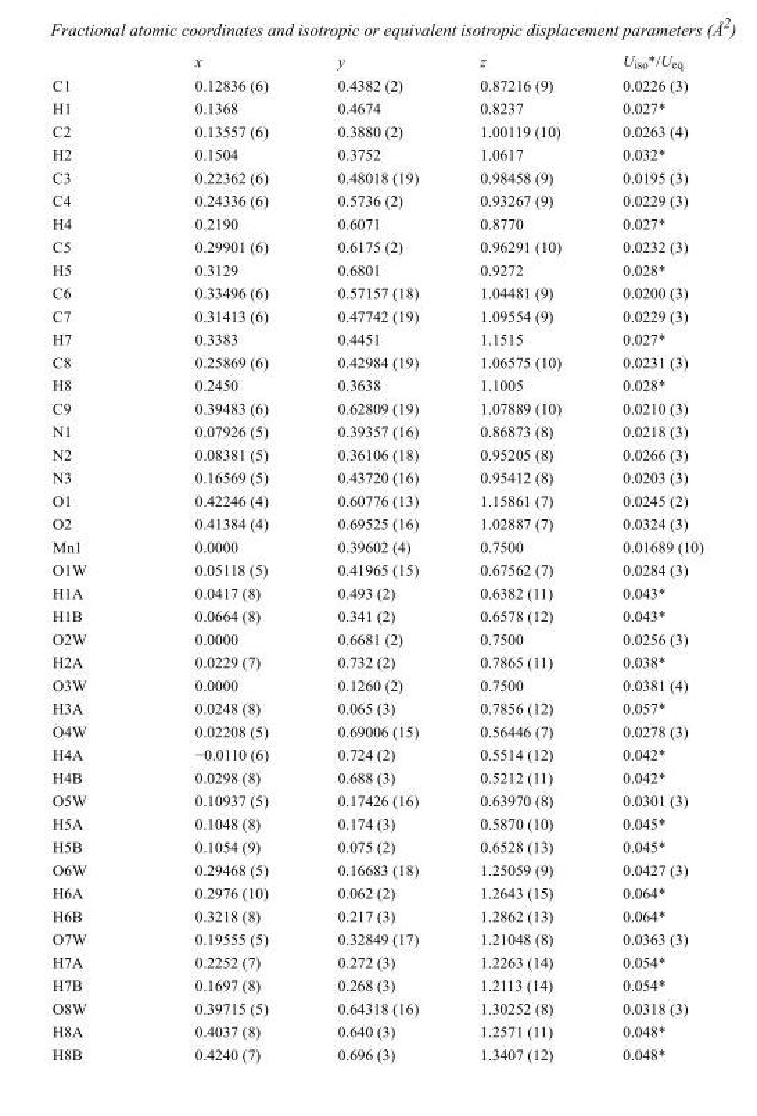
<table><thead><tr><td></td><td>x</td><td>y</td><td>z</td><td>U<sub>iso</sub>*/U<sub>eq</sub></td></tr></thead><tbody><tr><td>C1</td><td>0.12836 (6)</td><td>0.4382 (2)</td><td>0.87216 (9)</td><td>0.0226 (3)</td></tr><tr><td>H1</td><td>0.1368</td><td>0.4674</td><td>0.8237</td><td>0.027*</td></tr><tr><td>C2</td><td>0.13557 (6)</td><td>0.3880 (2)</td><td>1.00119 (10)</td><td>0.0263 (4)</td></tr><tr><td>H2</td><td>0.1504</td><td>0.3752</td><td>1.0617</td><td>0.032*</td></tr><tr><td>C3</td><td>0.22362 (6)</td><td>0.48018 (19)</td><td>0.98458 (9)</td><td>0.0195 (3)</td></tr><tr><td>C4</td><td>0.24336 (6)</td><td>0.5736 (2)</td><td>0.93267 (9)</td><td>0.0229 (3)</td></tr><tr><td>H4</td><td>0.2190</td><td>0.6071</td><td>0.8770</td><td>0.027*</td></tr><tr><td>C5</td><td>0.29901 (6)</td><td>0.6175 (2)</td><td>0.96291 (10)</td><td>0.0232 (3)</td></tr><tr><td>H5</td><td>0.3129</td><td>0.6801</td><td>0.9272</td><td>0.028*</td></tr><tr><td>C6</td><td>0.33496 (6)</td><td>0.57157 (18)</td><td>1.04481 (9)</td><td>0.0200 (3)</td></tr><tr><td>C7</td><td>0.31413 (6)</td><td>0.47742 (19)</td><td>1.09554 (9)</td><td>0.0229 (3)</td></tr><tr><td>H7</td><td>0.3383</td><td>0.4451</td><td>1.1515</td><td>0.027*</td></tr><tr><td>C8</td><td>0.25869 (6)</td><td>0.42984 (19)</td><td>1.06575 (10)</td><td>0.0231 (3)</td></tr><tr><td>H8</td><td>0.2450</td><td>0.3638</td><td>1.1005</td><td>0.028*</td></tr><tr><td>C9</td><td>0.39483 (6)</td><td>0.62809 (19)</td><td>1.07889 (10)</td><td>0.0210 (3)</td></tr><tr><td>N1</td><td>0.07926 (5)</td><td>0.39357 (16)</td><td>0.86873 (8)</td><td>0.0218 (3)</td></tr><tr><td>N2</td><td>0.08381 (5)</td><td>0.36106 (18)</td><td>0.95205 (8)</td><td>0.0266 (3)</td></tr><tr><td>N3</td><td>0.16569 (5)</td><td>0.43720 (16)</td><td>0.95412 (8)</td><td>0.0203 (3)</td></tr><tr><td>O1</td><td>0.42246 (4)</td><td>0.60776 (13)</td><td>1.15861 (7)</td><td>0.0245 (2)</td></tr><tr><td>O2</td><td>0.41384 (4)</td><td>0.69525 (16)</td><td>1.02887 (7)</td><td>0.0324 (3)</td></tr><tr><td>Mn1</td><td>0.0000</td><td>0.39602 (4)</td><td>0.7500</td><td>0.01689 (10)</td></tr><tr><td>O1W</td><td>0.05118 (5)</td><td>0.41965 (15)</td><td>0.67562 (7)</td><td>0.0284 (3)</td></tr><tr><td>H1A</td><td>0.0417 (8)</td><td>0.493 (2)</td><td>0.6382 (11)</td><td>0.043*</td></tr><tr><td>H1B</td><td>0.0664 (8)</td><td>0.341 (2)</td><td>0.6578 (12)</td><td>0.043*</td></tr><tr><td>O2W</td><td>0.0000</td><td>0.6681 (2)</td><td>0.7500</td><td>0.0256 (3)</td></tr><tr><td>H2A</td><td>0.0229 (7)</td><td>0.732 (2)</td><td>0.7865 (11)</td><td>0.038*</td></tr><tr><td>O3W</td><td>0.0000</td><td>0.1260 (2)</td><td>0.7500</td><td>0.0381 (4)</td></tr><tr><td>H3A</td><td>0.0248 (8)</td><td>0.065 (3)</td><td>0.7856 (12)</td><td>0.057*</td></tr><tr><td>O4W</td><td>0.02208 (5)</td><td>0.69006 (15)</td><td>0.56446 (7)</td><td>0.0278 (3)</td></tr><tr><td>H4A</td><td>−0.0110 (6)</td><td>0.724 (2)</td><td>0.5514 (12)</td><td>0.042*</td></tr><tr><td>H4B</td><td>0.0298 (8)</td><td>0.688 (3)</td><td>0.5212 (11)</td><td>0.042*</td></tr><tr><td>O5W</td><td>0.10937 (5)</td><td>0.17426 (16)</td><td>0.63970 (8)</td><td>0.0301 (3)</td></tr><tr><td>H5A</td><td>0.1048 (8)</td><td>0.174 (3)</td><td>0.5870 (10)</td><td>0.045*</td></tr><tr><td>H5B</td><td>0.1054 (9)</td><td>0.075 (2)</td><td>0.6528 (13)</td><td>0.045*</td></tr><tr><td>O6W</td><td>0.29468 (5)</td><td>0.16683 (18)</td><td>1.25059 (9)</td><td>0.0427 (3)</td></tr><tr><td>H6A</td><td>0.2976 (10)</td><td>0.062 (2)</td><td>1.2643 (15)</td><td>0.064*</td></tr><tr><td>H6B</td><td>0.3218 (8)</td><td>0.217 (3)</td><td>1.2862 (13)</td><td>0.064*</td></tr><tr><td>O7W</td><td>0.19555 (5)</td><td>0.32849 (17)</td><td>1.21048 (8)</td><td>0.0363 (3)</td></tr><tr><td>H7A</td><td>0.2252 (7)</td><td>0.272 (3)</td><td>1.2263 (14)</td><td>0.054*</td></tr><tr><td>H7B</td><td>0.1697 (8)</td><td>0.268 (3)</td><td>1.2113 (14)</td><td>0.054*</td></tr><tr><td>O8W</td><td>0.39715 (5)</td><td>0.64318 (16)</td><td>1.30252 (8)</td><td>0.0318 (3)</td></tr><tr><td>H8A</td><td>0.4037 (8)</td><td>0.640 (3)</td><td>1.2571 (11)</td><td>0.048*</td></tr><tr><td>H8B</td><td>0.4240 (7)</td><td>0.696 (3)</td><td>1.3407 (12)</td><td>0.048*</td></tr></tbody></table>